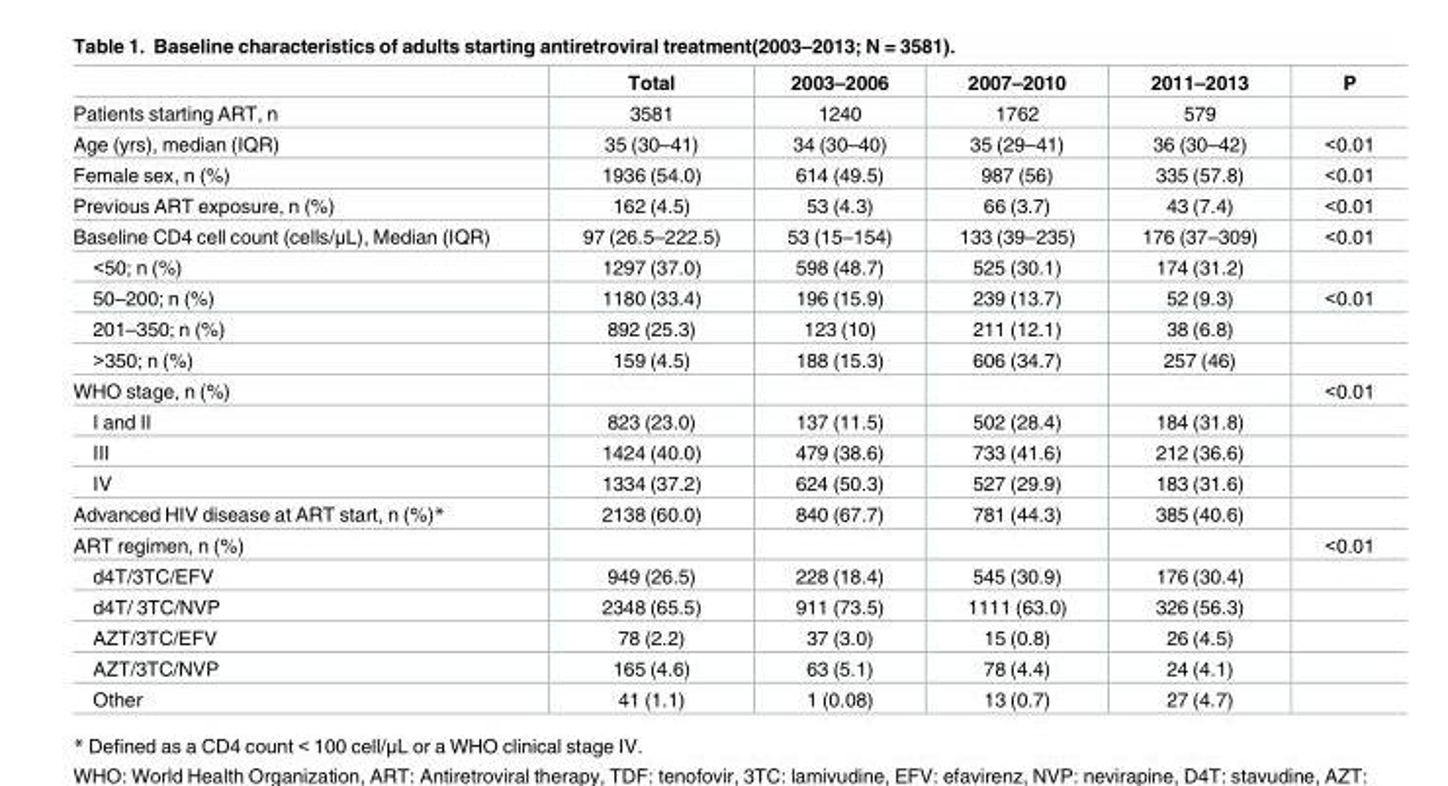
<table><thead><tr><td></td><td>Total</td><td>2003–2006</td><td>2007–2010</td><td>2011–2013</td><td>P</td></tr></thead><tbody><tr><td>Patients starting ART, n</td><td>3581</td><td>1240</td><td>1762</td><td>579</td><td></td></tr><tr><td>Age (yrs), median (IQR)</td><td>35 (30–41)</td><td>34 (30–40)</td><td>35 (29–41)</td><td>36 (30–42)</td><td>&lt;0.01</td></tr><tr><td>Female sex, n (%)</td><td>1936 (54.0)</td><td>614 (49.5)</td><td>987 (56)</td><td>335 (57.8)</td><td>&lt;0.01</td></tr><tr><td>Previous ART exposure, n (%)</td><td>162 (4.5)</td><td>53 (4.3)</td><td>66 (3.7)</td><td>43 (7.4)</td><td>&lt;0.01</td></tr><tr><td>Baseline CD4 cell count (cells/μL), Median (IQR)</td><td>97 (26.5–222.5)</td><td>53 (15–154)</td><td>133 (39–235)</td><td>176 (37–309)</td><td>&lt;0.01</td></tr><tr><td>&lt;50; n (%)</td><td>1297 (37.0)</td><td>598 (48.7)</td><td>525 (30.1)</td><td>174 (31.2)</td><td></td></tr><tr><td>50–200; n (%)</td><td>1180 (33.4)</td><td>196 (15.9)</td><td>239 (13.7)</td><td>52 (9.3)</td><td>&lt;0.01</td></tr><tr><td>201–350; n (%)</td><td>892 (25.3)</td><td>123 (10)</td><td>211 (12.1)</td><td>38 (6.8)</td><td></td></tr><tr><td>&gt;350; n (%)</td><td>159 (4.5)</td><td>188 (15.3)</td><td>606 (34.7)</td><td>257 (46)</td><td></td></tr><tr><td>WHO stage, n (%)</td><td></td><td></td><td></td><td></td><td>&lt;0.01</td></tr><tr><td>I and II</td><td>823 (23.0)</td><td>137 (11.5)</td><td>502 (28.4)</td><td>184 (31.8)</td><td></td></tr><tr><td>III</td><td>1424 (40.0)</td><td>479 (38.6)</td><td>733 (41.6)</td><td>212 (36.6)</td><td></td></tr><tr><td>IV</td><td>1334 (37.2)</td><td>624 (50.3)</td><td>527 (29.9)</td><td>183 (31.6)</td><td></td></tr><tr><td>Advanced HIV disease at ART start, n (%)*</td><td>2138 (60.0)</td><td>840 (67.7)</td><td>781 (44.3)</td><td>385 (40.6)</td><td></td></tr><tr><td>ART regimen, n (%)</td><td></td><td></td><td></td><td></td><td>&lt;0.01</td></tr><tr><td>d4T/3TC/EFV</td><td>949 (26.5)</td><td>228 (18.4)</td><td>545 (30.9)</td><td>176 (30.4)</td><td></td></tr><tr><td>d4T/ 3TC/NVP</td><td>2348 (65.5)</td><td>911 (73.5)</td><td>1111 (63.0)</td><td>326 (56.3)</td><td></td></tr><tr><td>AZT/3TC/EFV</td><td>78 (2.2)</td><td>37 (3.0)</td><td>15 (0.8)</td><td>26 (4.5)</td><td></td></tr><tr><td>AZT/3TC/NVP</td><td>165 (4.6)</td><td>63 (5.1)</td><td>78 (4.4)</td><td>24 (4.1)</td><td></td></tr><tr><td>Other</td><td>41 (1.1)</td><td>1 (0.08)</td><td>13 (0.7)</td><td>27 (4.7)</td><td></td></tr></tbody></table>